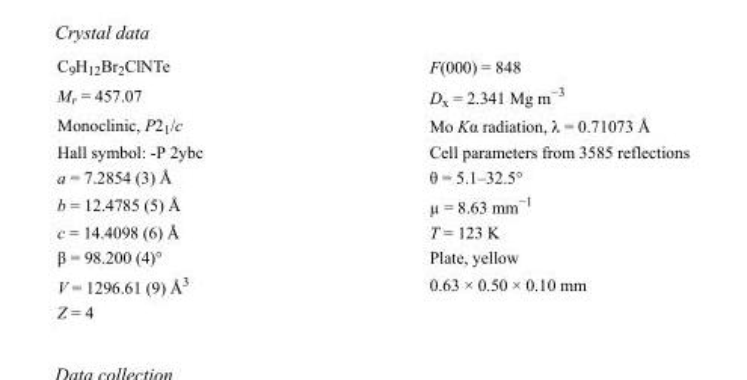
<table><tbody><tr><td>C<sub>9</sub>H<sub>12</sub>Br<sub>2</sub>ClNTe</td><td>F(000) = 848</td></tr><tr><td>M<sub>r</sub> = 457.07</td><td>D<sub>x</sub> = 2.341 Mg m<sup>−3</sup></td></tr><tr><td>Monoclinic, P2<sub>1</sub>/c</td><td>Mo Kα radiation, λ = 0.71073 Å</td></tr><tr><td>Hall symbol: -P 2ybc</td><td>Cell parameters from 3585 reflections</td></tr><tr><td>a = 7.2854 (3) Å</td><td>θ = 5.1–32.5°</td></tr><tr><td>b = 12.4785 (5) Å</td><td>µ = 8.63 mm<sup>−1</sup></td></tr><tr><td>c = 14.4098 (6) Å</td><td>T = 123 K</td></tr><tr><td>β = 98.200 (4)°</td><td>Plate, yellow</td></tr><tr><td>V = 1296.61 (9) Å<sup>3</sup></td><td>0.63 × 0.50 × 0.10 mm</td></tr><tr><td>Z = 4</td><td></td></tr></tbody></table>